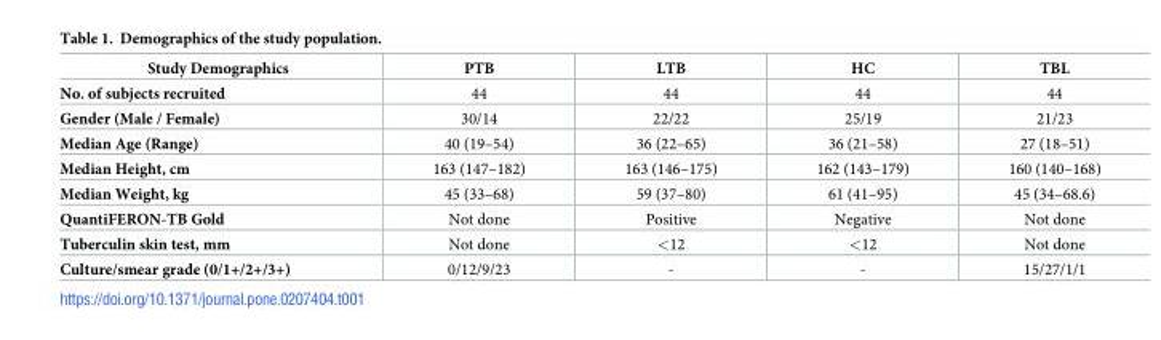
<table><thead><tr><td>Study Demographics</td><td>PTB</td><td>LTB</td><td>HC</td><td>TBL</td></tr></thead><tbody><tr><td>No. of subjects recruited</td><td>44</td><td>44</td><td>44</td><td>44</td></tr><tr><td>Gender (Male / Female)</td><td>30/14</td><td>22/22</td><td>25/19</td><td>21/23</td></tr><tr><td>Median Age (Range)</td><td>40 (19–54)</td><td>36 (22–65)</td><td>36 (21–58)</td><td>27 (18–51)</td></tr><tr><td>Median Height, cm</td><td>163 (147–182)</td><td>163 (146–175)</td><td>162 (143–179)</td><td>160 (140–168)</td></tr><tr><td>Median Weight, kg</td><td>45 (33–68)</td><td>59 (37–80)</td><td>61 (41–95)</td><td>45 (34–68.6)</td></tr><tr><td>QuantiFERON-TB Gold</td><td>Not done</td><td>Positive</td><td>Negative</td><td>Not done</td></tr><tr><td>Tuberculin skin test, mm</td><td>Not done</td><td>&lt;12</td><td>&lt;12</td><td>Not done</td></tr><tr><td>Culture/smear grade (0/1+/2+/3+)</td><td>0/12/9/23</td><td>-</td><td>-</td><td>15/27/1/1</td></tr></tbody></table>